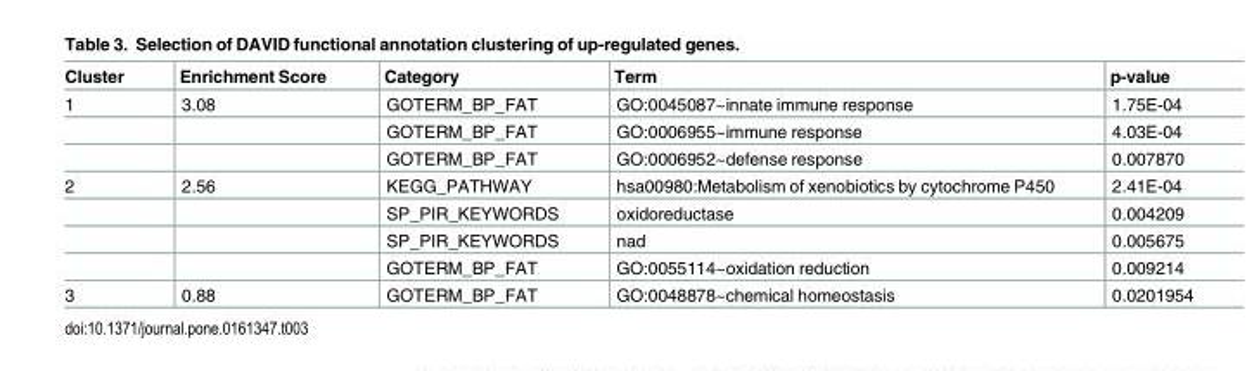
<table><thead><tr><td>Cluster</td><td>Enrichment Score</td><td>Category</td><td>Term</td><td>p-value</td></tr></thead><tbody><tr><td rowspan="3">1</td><td>3.08</td><td>GOTERM_BP_FAT</td><td>GO:0045087~innate immune response</td><td>1.75E-04</td></tr><tr><td></td><td>GOTERM_BP_FAT</td><td>GO:0006955~immune response</td><td>4.03E-04</td></tr><tr><td></td><td>GOTERM_BP_FAT</td><td>GO:0006952~defense response</td><td>0.007870</td></tr><tr><td rowspan="4">2</td><td>2.56</td><td>KEGG_PATHWAY</td><td>hsa00980:Metabolism of xenobiotics by cytochrome P450</td><td>2.41E-04</td></tr><tr><td></td><td>SP_PIR_KEYWORDS</td><td>oxidoreductase</td><td>0.004209</td></tr><tr><td></td><td>SP_PIR_KEYWORDS</td><td>nad</td><td>0.005675</td></tr><tr><td></td><td>GOTERM_BP_FAT</td><td>GO:0055114~oxidation reduction</td><td>0.009214</td></tr><tr><td>3</td><td>0.88</td><td>GOTERM_BP_FAT</td><td>GO:0048878~chemical homeostasis</td><td>0.0201954</td></tr></tbody></table>